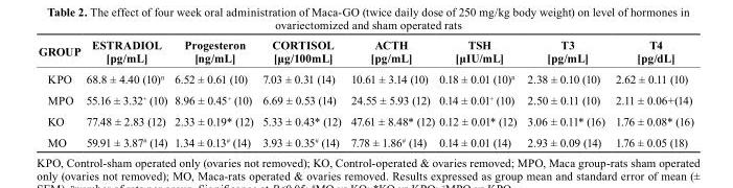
<table><thead><tr><td>GrOUP</td><td>EstrADIOL [pg/mL]</td><td>Progesteron [ng/mL]</td><td>cOrtIsOL [μg/100mL]</td><td>ActH [pg/mL]</td><td>tsH [μIU/mL]</td><td>t3 [pg/mL]</td><td>t4 [pg/dL]</td></tr></thead><tbody><tr><td>KPO</td><td>68.8 ± 4.40 (10)<sup>n</sup></td><td>6.52 ± 0.61 (10)</td><td>7.03 ± 0.31 (14)</td><td>10.61 ± 3.14 (10)</td><td>0.18 ± 0.01 (10)<sup>n</sup></td><td>2.38 ± 0.10 (10)</td><td>2.62 ± 0.11 (10)</td></tr><tr><td>MPO</td><td>55.16 ± 3.32+ (10)</td><td>8.96 ± 0.45+ (10)</td><td>6.69 ± 0.53 (14)</td><td>24.55 ± 5.93 (12)</td><td>0.14 ± 0.01+ (10)</td><td>2.50 ± 0.11 (10)</td><td>2.11 ± 0.06+(14)</td></tr><tr><td>KO</td><td>77.48 ± 2.83 (12)</td><td>2.33 ± 0.19* (12)</td><td>5.33 ± 0.43* (12)</td><td>47.61 ± 8.48* (12)</td><td>0.12 ± 0.01* (12)</td><td>3.06 ± 0.11* (16)</td><td>1.76 ± 0.08* (16)</td></tr><tr><td>MO</td><td>59.91 ± 3.87# (14)</td><td>1.34 ± 0.13# (14)</td><td>3.93 ± 0.35# (14)</td><td>7.78 ± 1.86# (14)</td><td>0.14 ± 0.01 (14)</td><td>2.93 ± 0.09 (14)</td><td>1.76 ± 0.05 (18)</td></tr></tbody></table>